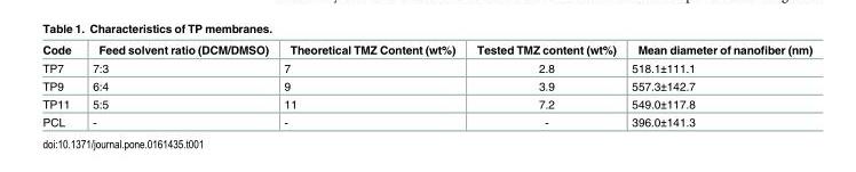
<table><thead><tr><td>Code</td><td>Feed solvent ratio (DCM/DMSO)</td><td>Theoretical TMZ Content (wt%)</td><td>Tested TMZ content (wt%)</td><td>Mean diameter of nanofiber (nm)</td></tr></thead><tbody><tr><td>TP7</td><td>7:3</td><td>7</td><td>2.8</td><td>518.1±111.1</td></tr><tr><td>TP9</td><td>6:4</td><td>9</td><td>3.9</td><td>557.3±142.7</td></tr><tr><td>TP11</td><td>5:5</td><td>11</td><td>7.2</td><td>549.0±117.8</td></tr><tr><td>PCL</td><td>-</td><td>-</td><td>-</td><td>396.0±141.3</td></tr></tbody></table>